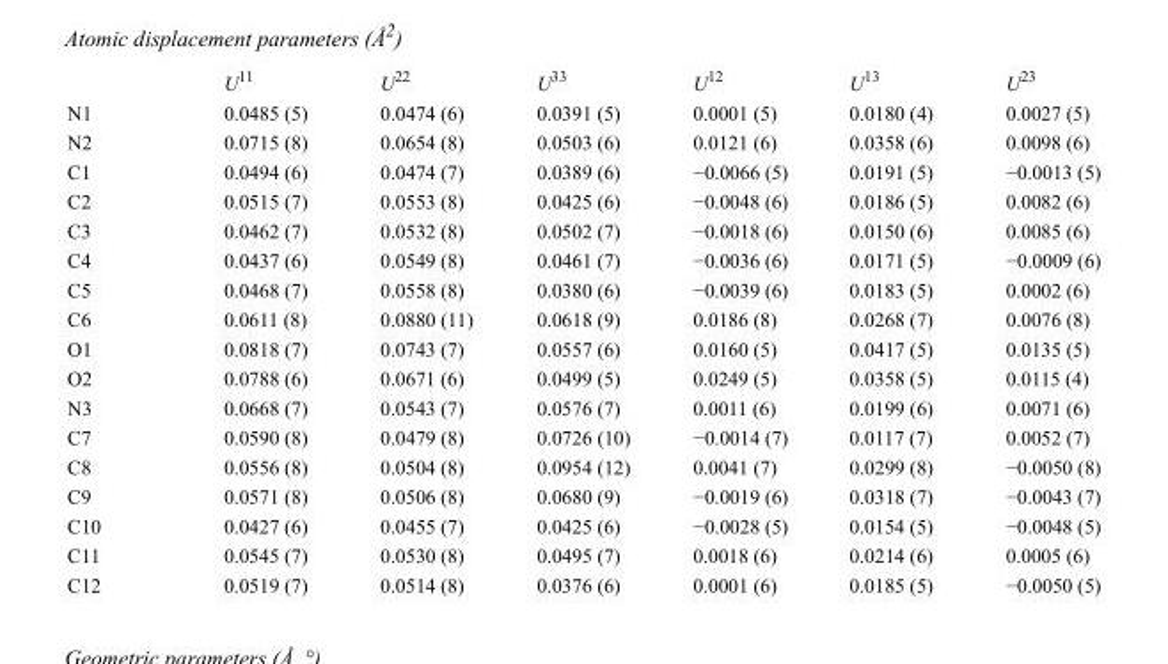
<table><thead><tr><td></td><td>U<sup>11</sup></td><td>U<sup>22</sup></td><td>U<sup>33</sup></td><td>U<sup>12</sup></td><td>U<sup>13</sup></td><td>U<sup>23</sup></td></tr></thead><tbody><tr><td>N1</td><td>0.0485 (5)</td><td>0.0474 (6)</td><td>0.0391 (5)</td><td>0.0001 (5)</td><td>0.0180 (4)</td><td>0.0027 (5)</td></tr><tr><td>N2</td><td>0.0715 (8)</td><td>0.0654 (8)</td><td>0.0503 (6)</td><td>0.0121 (6)</td><td>0.0358 (6)</td><td>0.0098 (6)</td></tr><tr><td>C1</td><td>0.0494 (6)</td><td>0.0474 (7)</td><td>0.0389 (6)</td><td>−0.0066 (5)</td><td>0.0191 (5)</td><td>−0.0013 (5)</td></tr><tr><td>C2</td><td>0.0515 (7)</td><td>0.0553 (8)</td><td>0.0425 (6)</td><td>−0.0048 (6)</td><td>0.0186 (5)</td><td>0.0082 (6)</td></tr><tr><td>C3</td><td>0.0462 (7)</td><td>0.0532 (8)</td><td>0.0502 (7)</td><td>−0.0018 (6)</td><td>0.0150 (6)</td><td>0.0085 (6)</td></tr><tr><td>C4</td><td>0.0437 (6)</td><td>0.0549 (8)</td><td>0.0461 (7)</td><td>−0.0036 (6)</td><td>0.0171 (5)</td><td>−0.0009 (6)</td></tr><tr><td>C5</td><td>0.0468 (7)</td><td>0.0558 (8)</td><td>0.0380 (6)</td><td>−0.0039 (6)</td><td>0.0183 (5)</td><td>0.0002 (6)</td></tr><tr><td>C6</td><td>0.0611 (8)</td><td>0.0880 (11)</td><td>0.0618 (9)</td><td>0.0186 (8)</td><td>0.0268 (7)</td><td>0.0076 (8)</td></tr><tr><td>O1</td><td>0.0818 (7)</td><td>0.0743 (7)</td><td>0.0557 (6)</td><td>0.0160 (5)</td><td>0.0417 (5)</td><td>0.0135 (5)</td></tr><tr><td>O2</td><td>0.0788 (6)</td><td>0.0671 (6)</td><td>0.0499 (5)</td><td>0.0249 (5)</td><td>0.0358 (5)</td><td>0.0115 (4)</td></tr><tr><td>N3</td><td>0.0668 (7)</td><td>0.0543 (7)</td><td>0.0576 (7)</td><td>0.0011 (6)</td><td>0.0199 (6)</td><td>0.0071 (6)</td></tr><tr><td>C7</td><td>0.0590 (8)</td><td>0.0479 (8)</td><td>0.0726 (10)</td><td>−0.0014 (7)</td><td>0.0117 (7)</td><td>0.0052 (7)</td></tr><tr><td>C8</td><td>0.0556 (8)</td><td>0.0504 (8)</td><td>0.0954 (12)</td><td>0.0041 (7)</td><td>0.0299 (8)</td><td>−0.0050 (8)</td></tr><tr><td>C9</td><td>0.0571 (8)</td><td>0.0506 (8)</td><td>0.0680 (9)</td><td>−0.0019 (6)</td><td>0.0318 (7)</td><td>−0.0043 (7)</td></tr><tr><td>C10</td><td>0.0427 (6)</td><td>0.0455 (7)</td><td>0.0425 (6)</td><td>−0.0028 (5)</td><td>0.0154 (5)</td><td>−0.0048 (5)</td></tr><tr><td>C11</td><td>0.0545 (7)</td><td>0.0530 (8)</td><td>0.0495 (7)</td><td>0.0018 (6)</td><td>0.0214 (6)</td><td>0.0005 (6)</td></tr><tr><td>C12</td><td>0.0519 (7)</td><td>0.0514 (8)</td><td>0.0376 (6)</td><td>0.0001 (6)</td><td>0.0185 (5)</td><td>−0.0050 (5)</td></tr></tbody></table>